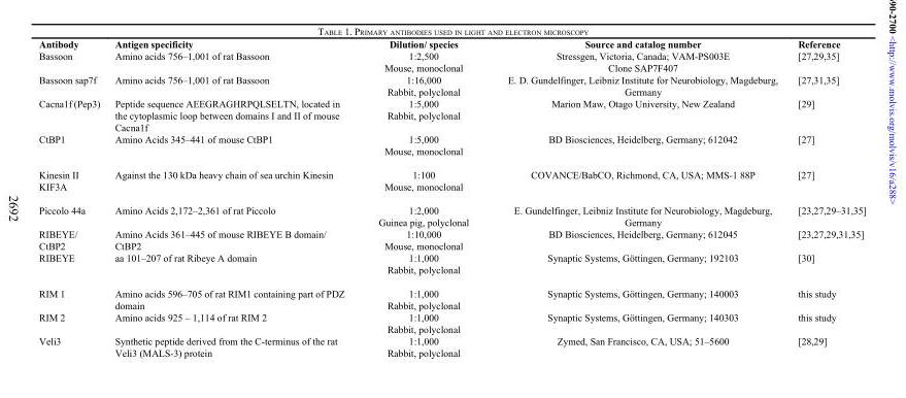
<table><thead><tr><td>Antibody</td><td>Antigen specificity</td><td>Dilution/ species</td><td>Source and catalog number</td><td>Reference</td></tr></thead><tbody><tr><td>Bassoon</td><td>Amino acids 756–1,001 of rat Bassoon</td><td>1:2,500 Mouse, monoclonal</td><td>Stressgen, Victoria, Canada; VAM-PS003E Clone SAP7F407</td><td>[27,29,35]</td></tr><tr><td>Bassoon sap7f</td><td>Amino acids 756–1,001 of rat Bassoon</td><td>1:16,000 Rabbit, polyclonal</td><td>E. D. Gundelfinger, Leibniz Institute for Neurobiology, Magdeburg, Germany</td><td>[27,31,35]</td></tr><tr><td>Cacna1f (Pep3)</td><td>Peptide sequence AEEGRAGHRPQLSELTN, located in the cytoplasmic loop between domains I and II of mouse Cacna1f</td><td>1:5,000 Rabbit, polyclonal</td><td>Marion Maw, Otago University, New Zealand</td><td>[29]</td></tr><tr><td>CtBP1</td><td>Amino Acids 345–441 of mouse CtBP1</td><td>1:5,000 Mouse, monoclonal</td><td>BD Biosciences, Heidelberg, Germany; 612042</td><td>[27]</td></tr><tr><td>Kinesin II KIF3A</td><td>Against the 130 kDa heavy chain of sea urchin Kinesin</td><td>1:100 Mouse, monoclonal</td><td>COVANCE/BabCO, Richmond, CA, USA; MMS-1 88P</td><td>[27]</td></tr><tr><td>Piccolo 44a</td><td>Amino Acids 2,172–2,361 of rat Piccolo</td><td>1:2,000 Guinea pig, polyclonal</td><td>E. Gundelfinger, Leibniz Institute for Neurobiology, Magdeburg, Germany</td><td>[23,27,29–31,35]</td></tr><tr><td>RIBEYE/ CtBP2</td><td>Amino Acids 361–445 of mouse RIBEYE B domain/ CtBP2</td><td>1:10,000 Mouse, monoclonal</td><td>BD Biosciences, Heidelberg, Germany; 612045</td><td>[23,27,29,31,35]</td></tr><tr><td>RIBEYE</td><td>aa 101–207 of rat Ribeye A domain</td><td>1:1,000 Rabbit, polyclonal</td><td>Synaptic Systems, Göttingen, Germany; 192103</td><td>[30]</td></tr><tr><td>RIM 1</td><td>Amino acids 596–705 of rat RIM1 containing part of PDZ domain</td><td>1:1,000 Rabbit, polyclonal</td><td>Synaptic Systems, Göttingen, Germany; 140003</td><td>this study</td></tr><tr><td>RIM 2</td><td>Amino acids 925 – 1,114 of rat RIM 2</td><td>1:1,000 Rabbit, polyclonal</td><td>Synaptic Systems, Göttingen, Germany; 140303</td><td>this study</td></tr><tr><td>Veli3</td><td>Synthetic peptide derived from the C-terminus of the rat Veli3 (MALS-3) protein</td><td>1:1,000 Rabbit, polyclonal</td><td>Zymed, San Francisco, CA, USA; 51–5600</td><td>[28,29]</td></tr></tbody></table>